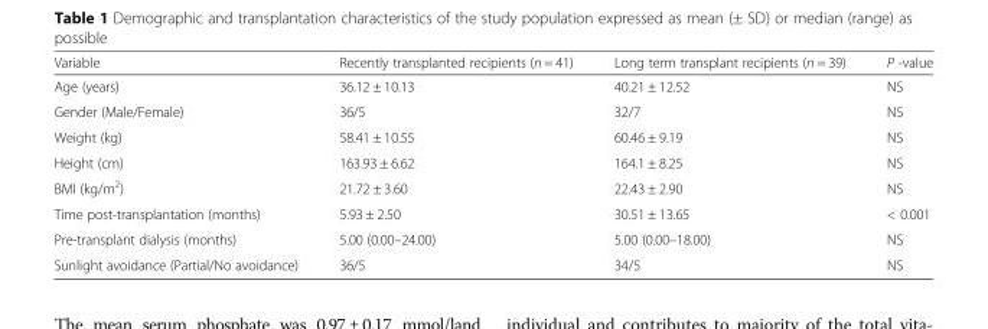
<table><thead><tr><td>Variable</td><td>Recently transplanted recipients (n = 41)</td><td>Long term transplant recipients (n = 39)</td><td>P -value</td></tr></thead><tbody><tr><td>Age (years)</td><td>36.12 ± 10.13</td><td>40.21 ± 12.52</td><td>NS</td></tr><tr><td>Gender (Male/Female)</td><td>36/5</td><td>32/7</td><td>NS</td></tr><tr><td>Weight (kg)</td><td>58.41 ± 10.55</td><td>60.46 ± 9.19</td><td>NS</td></tr><tr><td>Height (cm)</td><td>163.93 ± 6.62</td><td>164.1 ± 8.25</td><td>NS</td></tr><tr><td>BMI (kg/m<sup>2</sup>)</td><td>21.72 ± 3.60</td><td>22.43 ± 2.90</td><td>NS</td></tr><tr><td>Time post-transplantation (months)</td><td>5.93 ± 2.50</td><td>30.51 ± 13.65</td><td>&lt; 0.001</td></tr><tr><td>Pre-transplant dialysis (months)</td><td>5.00 (0.00–24.00)</td><td>5.00 (0.00–18.00)</td><td>NS</td></tr><tr><td>Sunlight avoidance (Partial/No avoidance)</td><td>36/5</td><td>34/5</td><td>NS</td></tr></tbody></table>